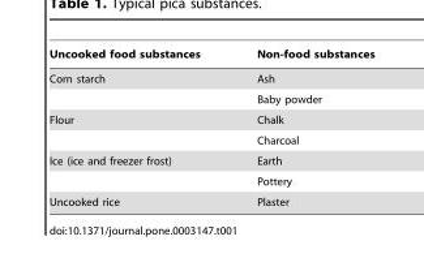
<table><thead><tr><td>Uncooked food substances</td><td>Non-food substances</td></tr></thead><tbody><tr><td rowspan="2">Corn starch</td><td>Ash</td></tr><tr><td>Baby powder</td></tr><tr><td rowspan="2">Flour</td><td>Chalk</td></tr><tr><td>Charcoal</td></tr><tr><td rowspan="2">Ice (ice and freezer frost)</td><td>Earth</td></tr><tr><td>Pottery</td></tr><tr><td>Uncooked rice</td><td>Plaster</td></tr></tbody></table>